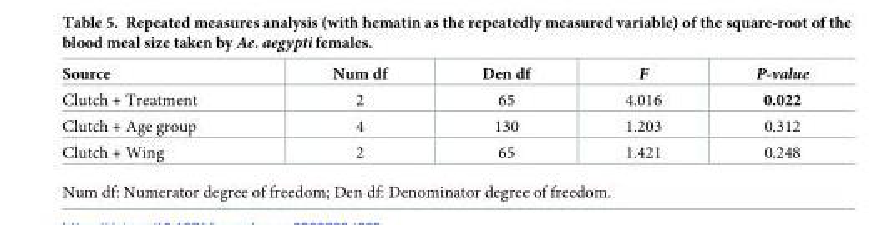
<table><thead><tr><td>Source</td><td>Num df</td><td>Den df</td><td>F</td><td>P-value</td></tr></thead><tbody><tr><td>Clutch + Treatment</td><td>2</td><td>65</td><td>4.016</td><td>0.022</td></tr><tr><td>Clutch + Age group</td><td>4</td><td>130</td><td>1.203</td><td>0.312</td></tr><tr><td>Clutch + Wing</td><td>2</td><td>65</td><td>1.421</td><td>0.248</td></tr></tbody></table>